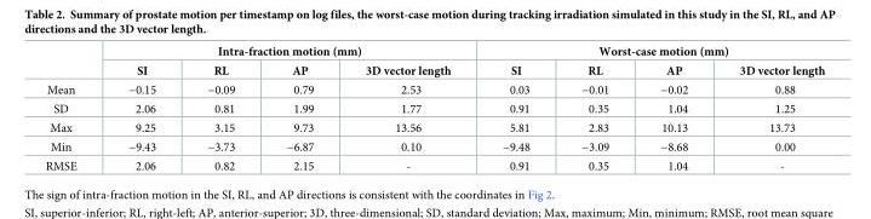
<table><thead><tr><td rowspan="2"></td><td colspan="4">Intra-fraction motion (mm)</td><td colspan="4">Worst-case motion (mm)</td></tr><tr><td>SI</td><td>RL</td><td>AP</td><td>3D vector length</td><td>SI</td><td>RL</td><td>AP</td><td>3D vector length</td></tr></thead><tbody><tr><td>Mean</td><td>−0.15</td><td>−0.09</td><td>0.79</td><td>2.53</td><td>0.03</td><td>−0.01</td><td>−0.02</td><td>0.88</td></tr><tr><td>SD</td><td>2.06</td><td>0.81</td><td>1.99</td><td>1.77</td><td>0.91</td><td>0.35</td><td>1.04</td><td>1.25</td></tr><tr><td>Max</td><td>9.25</td><td>3.15</td><td>9.73</td><td>13.56</td><td>5.81</td><td>2.83</td><td>10.13</td><td>13.73</td></tr><tr><td>Min</td><td>−9.43</td><td>−3.73</td><td>−6.87</td><td>0.10</td><td>−9.48</td><td>−3.09</td><td>−8.68</td><td>0.00</td></tr><tr><td>RMSE</td><td>2.06</td><td>0.82</td><td>2.15</td><td>-</td><td>0.91</td><td>0.35</td><td>1.04</td><td>-</td></tr></tbody></table>